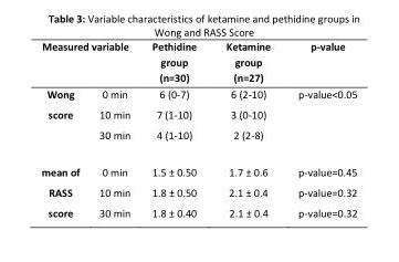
<table><thead><tr><td colspan="2">Measured variable</td><td rowspan="2">Pethidine group (n=30) 6 (0-7) 7 (1-10) 4 (1-10)</td><td rowspan="2">Ketamine group (n=27) 6 (2-10) 3 (0-10) 2 (2-8)</td><td rowspan="2">p-value p-value&lt;0.05</td></tr><tr><td>Wong score</td><td>0 min 10 min 30 min</td></tr></thead><tbody><tr><td>mean of RASS score</td><td>0 min 10 min 30 min</td><td>1.5 ± 0.50 1.8 ± 0.50 1.8 ± 0.40</td><td>1.7 ± 0.6 2.1 ± 0.4 2.1 ± 0.4</td><td>p-value=0.45 p-value=0.32 p-value=0.32</td></tr></tbody></table>